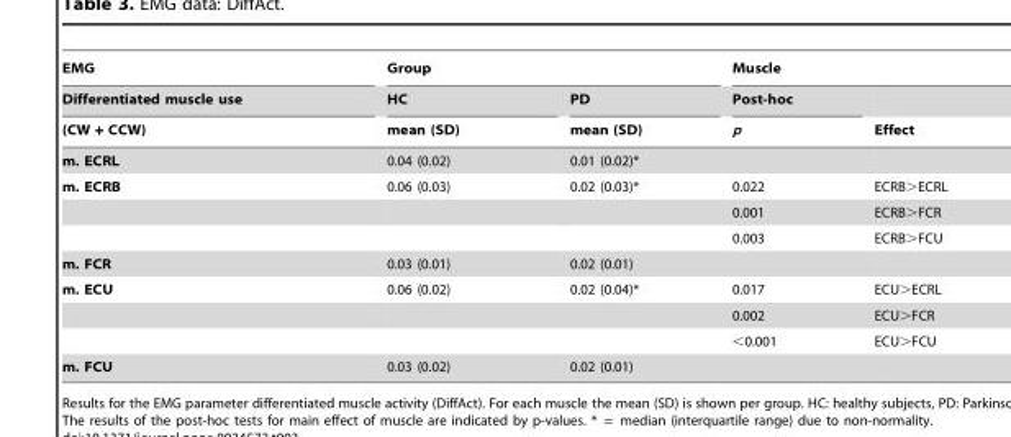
<table><thead><tr><td rowspan="3">EMG Differentiated muscle use (CW + CCW)</td><td colspan="2">Group</td><td colspan="2">Muscle</td></tr><tr><td rowspan="2">HC mean (SD)</td><td rowspan="2">PD mean (SD)</td><td rowspan="2">Post-hoc p</td><td rowspan="2">Effect</td></tr><tr></tr></thead><tbody><tr><td>m. ECRL</td><td>0.04 (0.02)</td><td>0.01 (0.02)*</td><td></td><td></td></tr><tr><td rowspan="3">m. ECRB</td><td>0.06 (0.03)</td><td>0.02 (0.03)*</td><td>0.022</td><td>ECRB&gt;ECRL</td></tr><tr><td></td><td></td><td>0.001</td><td>ECRB&gt;FCR</td></tr><tr><td></td><td></td><td>0.003</td><td>ECRB&gt;FCU</td></tr><tr><td>m. FCR</td><td>0.03 (0.01)</td><td>0.02 (0.01)</td><td></td><td></td></tr><tr><td rowspan="3">m. ECU</td><td>0.06 (0.02)</td><td>0.02 (0.04)*</td><td>0.017</td><td>ECU&gt;ECRL</td></tr><tr><td></td><td></td><td>0.002</td><td>ECU&gt;FCR</td></tr><tr><td></td><td></td><td>&lt;0.001</td><td>ECU&gt;FCU</td></tr><tr><td>m. FCU</td><td>0.03 (0.02)</td><td>0.02 (0.01)</td><td></td><td></td></tr></tbody></table>